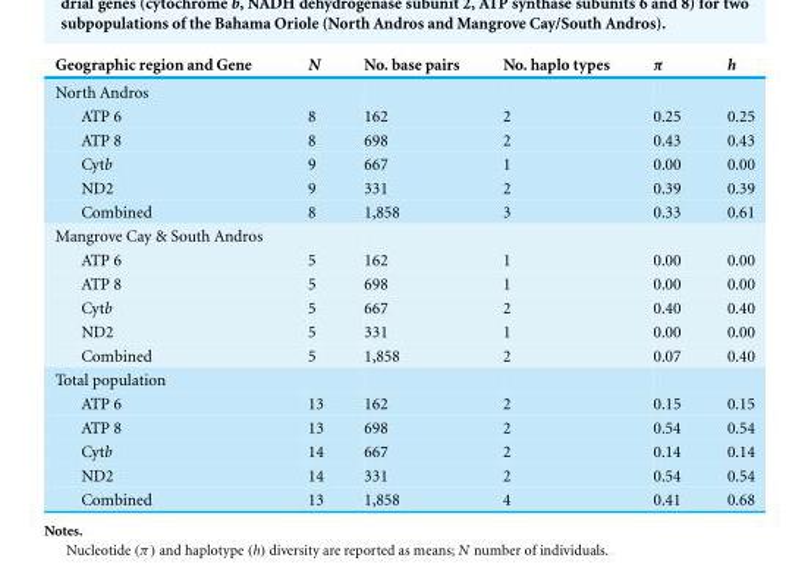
<table><thead><tr><td>Geographic region and Gene</td><td>N</td><td>No. base pairs</td><td>No. haplo types</td><td>π</td><td>h</td></tr></thead><tbody><tr><td colspan="6">North Andros</td></tr><tr><td>ATP 6</td><td>8</td><td>162</td><td>2</td><td>0.25</td><td>0.25</td></tr><tr><td>ATP 8</td><td>8</td><td>698</td><td>2</td><td>0.43</td><td>0.43</td></tr><tr><td>Cytb</td><td>9</td><td>667</td><td>1</td><td>0.00</td><td>0.00</td></tr><tr><td>ND2</td><td>9</td><td>331</td><td>2</td><td>0.39</td><td>0.39</td></tr><tr><td>Combined</td><td>8</td><td>1,858</td><td>3</td><td>0.33</td><td>0.61</td></tr><tr><td colspan="6">Mangrove Cay &amp; South Andros</td></tr><tr><td>ATP 6</td><td>5</td><td>162</td><td>1</td><td>0.00</td><td>0.00</td></tr><tr><td>ATP 8</td><td>5</td><td>698</td><td>1</td><td>0.00</td><td>0.00</td></tr><tr><td>Cytb</td><td>5</td><td>667</td><td>2</td><td>0.40</td><td>0.40</td></tr><tr><td>ND2</td><td>5</td><td>331</td><td>1</td><td>0.00</td><td>0.00</td></tr><tr><td>Combined</td><td>5</td><td>1,858</td><td>2</td><td>0.07</td><td>0.40</td></tr><tr><td colspan="6">Total population</td></tr><tr><td>ATP 6</td><td>13</td><td>162</td><td>2</td><td>0.15</td><td>0.15</td></tr><tr><td>ATP 8</td><td>13</td><td>698</td><td>2</td><td>0.54</td><td>0.54</td></tr><tr><td>Cytb</td><td>14</td><td>667</td><td>2</td><td>0.14</td><td>0.14</td></tr><tr><td>ND2</td><td>14</td><td>331</td><td>2</td><td>0.54</td><td>0.54</td></tr><tr><td>Combined</td><td>13</td><td>1,858</td><td>4</td><td>0.41</td><td>0.68</td></tr></tbody></table>